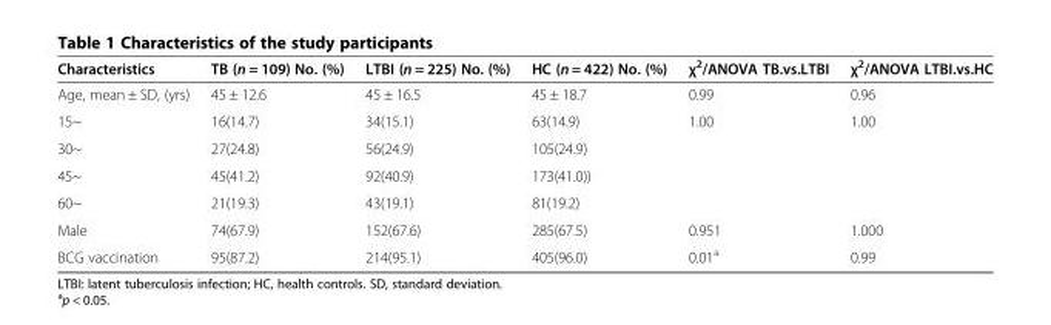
<table><thead><tr><td>Characteristics</td><td>TB (n = 109) No. (%)</td><td>LTBI (n = 225) No. (%)</td><td>HC (n = 422) No. (%)</td><td>χ<sup>2</sup>/ANOVA TB.vs.LTBI</td><td>χ<sup>2</sup>/ANOVA LTBI.vs.HC</td></tr></thead><tbody><tr><td>Age, mean ± SD, (yrs)</td><td>45 ± 12.6</td><td>45 ± 16.5</td><td>45 ± 18.7</td><td>0.99</td><td>0.96</td></tr><tr><td>15~</td><td>16(14.7)</td><td>34(15.1)</td><td>63(14.9)</td><td>1.00</td><td>1.00</td></tr><tr><td>30~</td><td>27(24.8)</td><td>56(24.9)</td><td>105(24.9)</td><td></td><td></td></tr><tr><td>45~</td><td>45(41.2)</td><td>92(40.9)</td><td>173(41.0))</td><td></td><td></td></tr><tr><td>60~</td><td>21(19.3)</td><td>43(19.1)</td><td>81(19.2)</td><td></td><td></td></tr><tr><td>Male</td><td>74(67.9)</td><td>152(67.6)</td><td>285(67.5)</td><td>0.951</td><td>1.000</td></tr><tr><td>BCG vaccination</td><td>95(87.2)</td><td>214(95.1)</td><td>405(96.0)</td><td>0.01<sup>a</sup></td><td>0.99</td></tr></tbody></table>